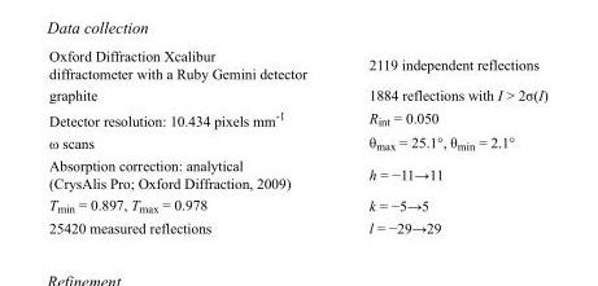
<table><tbody><tr><td>Oxford Diffraction Xcalibur diffractometer with a Ruby Gemini detector</td><td>2119 independent reflections</td></tr><tr><td>graphite</td><td>1884 reflections with I &gt; 2σ(I)</td></tr><tr><td>Detector resolution: 10.434 pixels mm<sup>-1</sup></td><td>R<sub>int</sub> = 0.050</td></tr><tr><td>ω scans</td><td>θ<sub>max</sub> = 25.1°, θ<sub>min</sub> = 2.1°</td></tr><tr><td>Absorption correction: analytical (CrysAlis Pro; Oxford Diffraction, 2009)</td><td>h = −11→11</td></tr><tr><td>T<sub>min</sub> = 0.897, T<sub>max</sub> = 0.978</td><td>k = −5→5</td></tr><tr><td>25420 measured reflections</td><td>l = −29→29</td></tr></tbody></table>